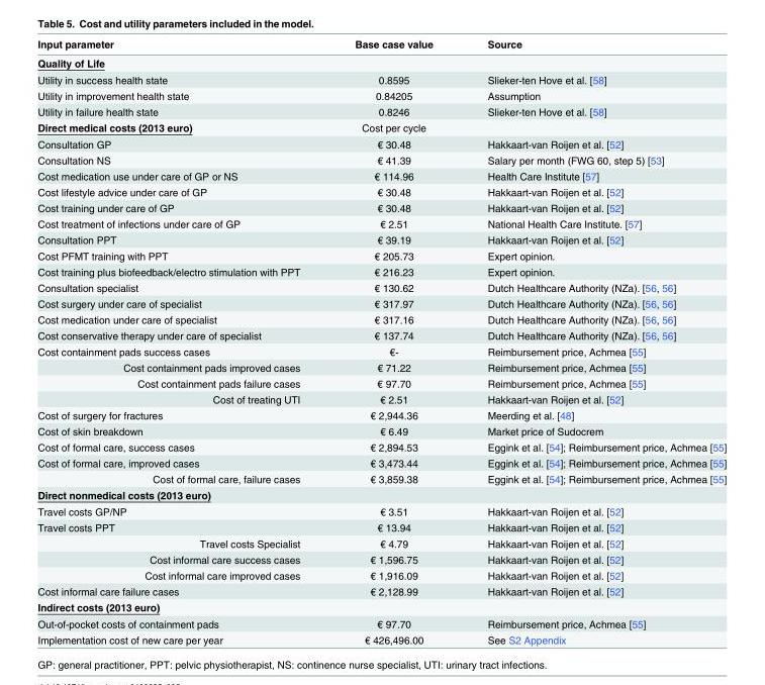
<table><thead><tr><td>Input parameter</td><td>Base case value</td><td>Source</td></tr></thead><tbody><tr><td colspan="3">Quality of Life</td></tr><tr><td>Utility in success health state</td><td>0.8595</td><td>Slieker-ten Hove et al. [58]</td></tr><tr><td>Utility in improvement health state</td><td>0.84205</td><td>Assumption</td></tr><tr><td>Utility in failure health state</td><td>0.8246</td><td>Slieker-ten Hove et al. [58]</td></tr><tr><td>Direct medical costs (2013 euro)</td><td>Cost per cycle</td><td></td></tr><tr><td>Consultation GP</td><td>€ 30.48</td><td>Hakkaart-van Roijen et al. [52]</td></tr><tr><td>Consultation NS</td><td>€ 41.39</td><td>Salary per month (FWG 60, step 5) [53]</td></tr><tr><td>Cost medication use under care of GP or NS</td><td>€ 114.96</td><td>Health Care Institute [57]</td></tr><tr><td>Cost lifestyle advice under care of GP</td><td>€ 30.48</td><td>Hakkaart-van Roijen et al. [52]</td></tr><tr><td>Cost training under care of GP</td><td>€ 30.48</td><td>Hakkaart-van Roijen et al. [52]</td></tr><tr><td>Cost treatment of infections under care of GP</td><td>€ 2.51</td><td>National Health Care Institute. [57]</td></tr><tr><td>Consultation PPT</td><td>€ 39.19</td><td>Hakkaart-van Roijen et al. [52]</td></tr><tr><td>Cost PFMT training with PPT</td><td>€ 205.73</td><td>Expert opinion.</td></tr><tr><td>Cost training plus biofeedback/electro stimulation with PPT</td><td>€ 216.23</td><td>Expert opinion.</td></tr><tr><td>Consultation specialist</td><td>€ 130.62</td><td>Dutch Healthcare Authority (NZa). [56, 56]</td></tr><tr><td>Cost surgery under care of specialist</td><td>€ 317.97</td><td>Dutch Healthcare Authority (NZa). [56, 56]</td></tr><tr><td>Cost medication under care of specialist</td><td>€ 317.16</td><td>Dutch Healthcare Authority (NZa). [56, 56]</td></tr><tr><td>Cost conservative therapy under care of specialist</td><td>€ 137.74</td><td>Dutch Healthcare Authority (NZa). [56, 56]</td></tr><tr><td>Cost containment pads success cases</td><td>€-</td><td>Reimbursement price, Achmea [55]</td></tr><tr><td>Cost containment pads improved cases</td><td>€ 71.22</td><td>Reimbursement price, Achmea [55]</td></tr><tr><td>Cost containment pads failure cases</td><td>€ 97.70</td><td>Reimbursement price, Achmea [55]</td></tr><tr><td>Cost of treating UTI</td><td>€ 2.51</td><td>Hakkaart-van Roijen et al. [52]</td></tr><tr><td>Cost of surgery for fractures</td><td>€ 2,944.36</td><td>Meerding et al. [48]</td></tr><tr><td>Cost of skin breakdown</td><td>€ 6.49</td><td>Market price of Sudocrem</td></tr><tr><td>Cost of formal care, success cases</td><td>€ 2,894.53</td><td>Eggink et al. [54]; Reimbursement price, Achmea [55]</td></tr><tr><td>Cost of formal care, improved cases</td><td>€ 3,473.44</td><td>Eggink et al. [54]; Reimbursement price, Achmea [55]</td></tr><tr><td>Cost of formal care, failure cases</td><td>€ 3,859.38</td><td>Eggink et al. [54]; Reimbursement price, Achmea [55]</td></tr><tr><td colspan="3">Direct nonmedical costs (2013 euro)</td></tr><tr><td>Travel costs GP/NP</td><td>€ 3.51</td><td>Hakkaart-van Roijen et al. [52]</td></tr><tr><td>Travel costs PPT</td><td>€ 13.94</td><td>Hakkaart-van Roijen et al. [52]</td></tr><tr><td>Travel costs Specialist</td><td>€ 4.79</td><td>Hakkaart-van Roijen et al. [52]</td></tr><tr><td>Cost informal care success cases</td><td>€ 1,596.75</td><td>Hakkaart-van Roijen et al. [52]</td></tr><tr><td>Cost informal care improved cases</td><td>€ 1,916.09</td><td>Hakkaart-van Roijen et al. [52]</td></tr><tr><td>Cost informal care failure cases</td><td>€ 2,128.99</td><td>Hakkaart-van Roijen et al. [52]</td></tr><tr><td colspan="3">Indirect costs (2013 euro)</td></tr><tr><td>Out-of-pocket costs of containment pads</td><td>€ 97.70</td><td>Reimbursement price, Achmea [55]</td></tr><tr><td>Implementation cost of new care per year</td><td>€ 426,496.00</td><td>See S2 Appendix</td></tr></tbody></table>